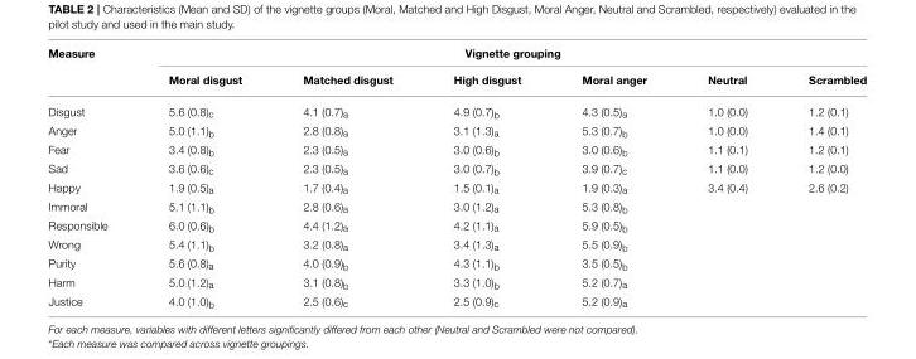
<table><thead><tr><td rowspan="2">Measure</td><td colspan="6">Vignette grouping</td></tr><tr><td>Moral disgust</td><td>Matched disgust</td><td>High disgust</td><td>Moral anger</td><td>Neutral</td><td>Scrambled</td></tr></thead><tbody><tr><td>Disgust</td><td>5.6 (0.8)<sub>c</sub></td><td>4.1 (0.7)<sub>a</sub></td><td>4.9 (0.7)<sub>b</sub></td><td>4.3 (0.5)<sub>a</sub></td><td>1.0 (0.0)</td><td>1.2 (0.1)</td></tr><tr><td>Anger</td><td>5.0 (1.1)<sub>b</sub></td><td>2.8 (0.8)<sub>a</sub></td><td>3.1 (1.3)<sub>a</sub></td><td>5.3 (0.7)<sub>b</sub></td><td>1.0 (0.0)</td><td>1.4 (0.1)</td></tr><tr><td>Fear</td><td>3.4 (0.8)<sub>b</sub></td><td>2.3 (0.5)<sub>a</sub></td><td>3.0 (0.6)<sub>b</sub></td><td>3.0 (0.6)<sub>b</sub></td><td>1.1 (0.1)</td><td>1.2 (0.1)</td></tr><tr><td>Sad</td><td>3.6 (0.6)<sub>c</sub></td><td>2.3 (0.5)<sub>a</sub></td><td>3.0 (0.7)<sub>b</sub></td><td>3.9 (0.7)<sub>c</sub></td><td>1.1 (0.0)</td><td>1.2 (0.0)</td></tr><tr><td>Happy</td><td>1.9 (0.5)<sub>a</sub></td><td>1.7 (0.4)<sub>a</sub></td><td>1.5 (0.1)<sub>a</sub></td><td>1.9 (0.3)<sub>a</sub></td><td>3.4 (0.4)</td><td>2.6 (0.2)</td></tr><tr><td>Immoral</td><td>5.1 (1.1)<sub>b</sub></td><td>2.8 (0.6)<sub>a</sub></td><td>3.0 (1.2)<sub>a</sub></td><td>5.3 (0.8)<sub>b</sub></td><td></td><td></td></tr><tr><td>Responsible</td><td>6.0 (0.6)<sub>b</sub></td><td>4.4 (1.2)<sub>a</sub></td><td>4.2 (1.1)<sub>a</sub></td><td>5.9 (0.5)<sub>b</sub></td><td></td><td></td></tr><tr><td>Wrong</td><td>5.4 (1.1)<sub>b</sub></td><td>3.2 (0.8)<sub>a</sub></td><td>3.4 (1.3)<sub>a</sub></td><td>5.5 (0.9)<sub>b</sub></td><td></td><td></td></tr><tr><td>Purity</td><td>5.6 (0.8)<sub>a</sub></td><td>4.0 (0.9)<sub>b</sub></td><td>4.3 (1.1)<sub>b</sub></td><td>3.5 (0.5)<sub>b</sub></td><td></td><td></td></tr><tr><td>Harm</td><td>5.0 (1.2)<sub>a</sub></td><td>3.1 (0.8)<sub>b</sub></td><td>3.3 (1.0)<sub>b</sub></td><td>5.2 (0.7)<sub>a</sub></td><td></td><td></td></tr><tr><td>Justice</td><td>4.0 (1.0)<sub>b</sub></td><td>2.5 (0.6)<sub>c</sub></td><td>2.5 (0.9)<sub>c</sub></td><td>5.2 (0.9)<sub>a</sub></td><td></td><td></td></tr></tbody></table>